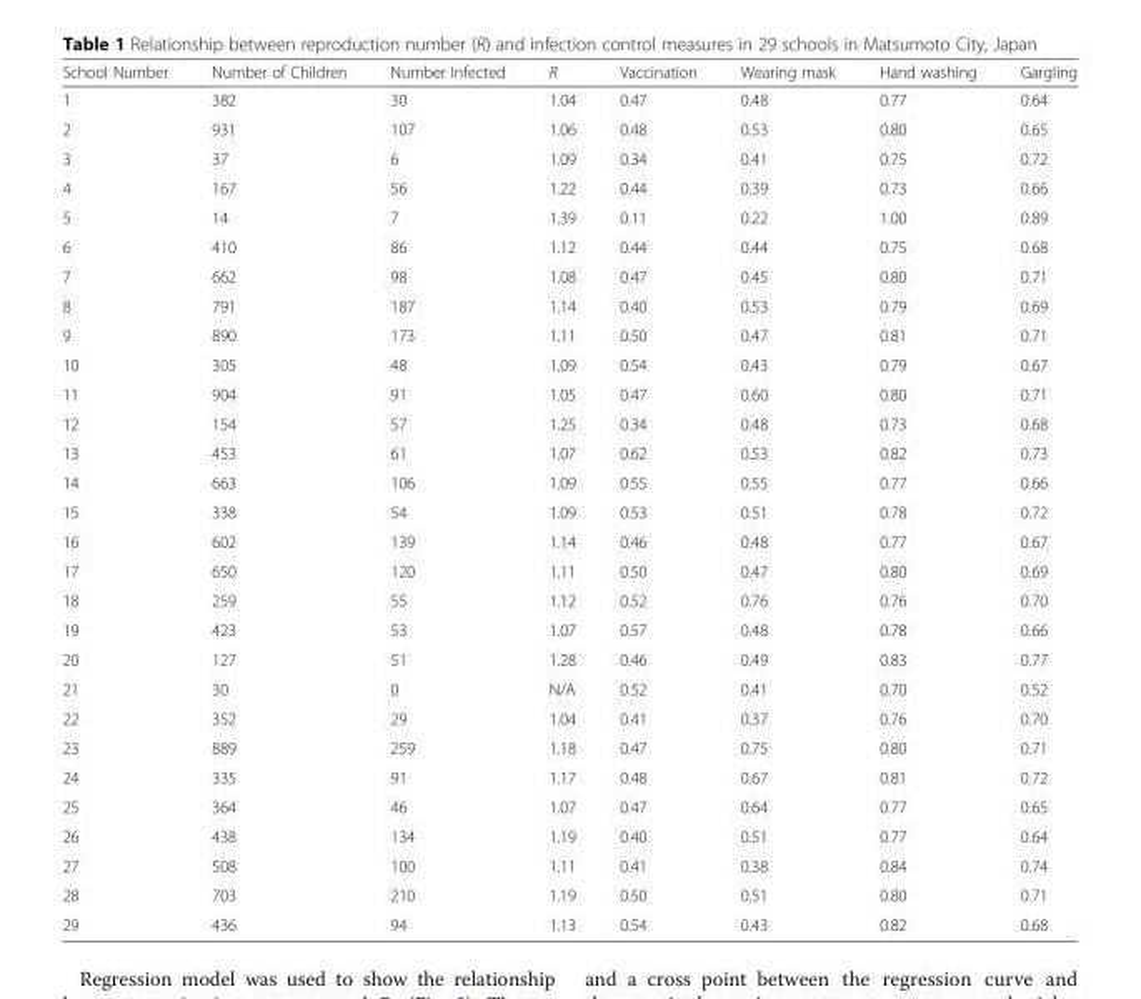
<table><thead><tr><td>School Number</td><td>Number of Children</td><td>Number Infected</td><td>R</td><td>Vaccination</td><td>Wearing mask</td><td>Hand washing</td><td>Gargling</td></tr></thead><tbody><tr><td>1</td><td>382</td><td>30</td><td>1.04</td><td>0.47</td><td>0.48</td><td>0.77</td><td>0.64</td></tr><tr><td>2</td><td>931</td><td>107</td><td>1.06</td><td>0.48</td><td>0.53</td><td>0.80</td><td>0.65</td></tr><tr><td>3</td><td>37</td><td>6</td><td>1.09</td><td>0.34</td><td>0.41</td><td>0.75</td><td>0.72</td></tr><tr><td>4</td><td>167</td><td>56</td><td>1.22</td><td>0.44</td><td>0.39</td><td>0.73</td><td>0.66</td></tr><tr><td>5</td><td>14</td><td>7</td><td>1.39</td><td>0.11</td><td>0.22</td><td>1.00</td><td>0.89</td></tr><tr><td>6</td><td>410</td><td>86</td><td>1.12</td><td>0.44</td><td>0.44</td><td>0.75</td><td>0.68</td></tr><tr><td>7</td><td>662</td><td>98</td><td>1.08</td><td>0.47</td><td>0.45</td><td>0.80</td><td>0.71</td></tr><tr><td>8</td><td>791</td><td>187</td><td>1.14</td><td>0.40</td><td>0.53</td><td>0.79</td><td>0.69</td></tr><tr><td>9</td><td>890</td><td>173</td><td>1.11</td><td>0.50</td><td>0.47</td><td>0.81</td><td>0.71</td></tr><tr><td>10</td><td>305</td><td>48</td><td>1.09</td><td>0.54</td><td>0.43</td><td>0.79</td><td>0.67</td></tr><tr><td>11</td><td>904</td><td>91</td><td>1.05</td><td>0.47</td><td>0.60</td><td>0.80</td><td>0.71</td></tr><tr><td>12</td><td>154</td><td>57</td><td>1.25</td><td>0.34</td><td>0.48</td><td>0.73</td><td>0.68</td></tr><tr><td>13</td><td>453</td><td>61</td><td>1.07</td><td>0.62</td><td>0.53</td><td>0.82</td><td>0.73</td></tr><tr><td>14</td><td>663</td><td>106</td><td>1.09</td><td>0.55</td><td>0.55</td><td>0.77</td><td>0.66</td></tr><tr><td>15</td><td>338</td><td>54</td><td>1.09</td><td>0.53</td><td>0.51</td><td>0.78</td><td>0.72</td></tr><tr><td>16</td><td>602</td><td>139</td><td>1.14</td><td>0.46</td><td>0.48</td><td>0.77</td><td>0.67</td></tr><tr><td>17</td><td>650</td><td>120</td><td>1.11</td><td>0.50</td><td>0.47</td><td>0.80</td><td>0.69</td></tr><tr><td>18</td><td>259</td><td>55</td><td>1.12</td><td>0.52</td><td>0.76</td><td>0.76</td><td>0.70</td></tr><tr><td>19</td><td>423</td><td>53</td><td>1.07</td><td>0.57</td><td>0.48</td><td>0.78</td><td>0.66</td></tr><tr><td>20</td><td>127</td><td>51</td><td>1.28</td><td>0.46</td><td>0.49</td><td>0.83</td><td>0.77</td></tr><tr><td>21</td><td>30</td><td>0</td><td>N/A</td><td>0.52</td><td>0.41</td><td>0.70</td><td>0.52</td></tr><tr><td>22</td><td>352</td><td>29</td><td>1.04</td><td>0.41</td><td>0.37</td><td>0.76</td><td>0.70</td></tr><tr><td>23</td><td>889</td><td>259</td><td>1.18</td><td>0.47</td><td>0.75</td><td>0.80</td><td>0.71</td></tr><tr><td>24</td><td>335</td><td>91</td><td>1.17</td><td>0.48</td><td>0.67</td><td>0.81</td><td>0.72</td></tr><tr><td>25</td><td>364</td><td>46</td><td>1.07</td><td>0.47</td><td>0.64</td><td>0.77</td><td>0.65</td></tr><tr><td>26</td><td>438</td><td>134</td><td>1.19</td><td>0.40</td><td>0.51</td><td>0.77</td><td>0.64</td></tr><tr><td>27</td><td>508</td><td>100</td><td>1.11</td><td>0.41</td><td>0.38</td><td>0.84</td><td>0.74</td></tr><tr><td>28</td><td>703</td><td>210</td><td>1.19</td><td>0.50</td><td>0.51</td><td>0.80</td><td>0.71</td></tr><tr><td>29</td><td>436</td><td>94</td><td>1.13</td><td>0.54</td><td>0.43</td><td>0.82</td><td>0.68</td></tr></tbody></table>